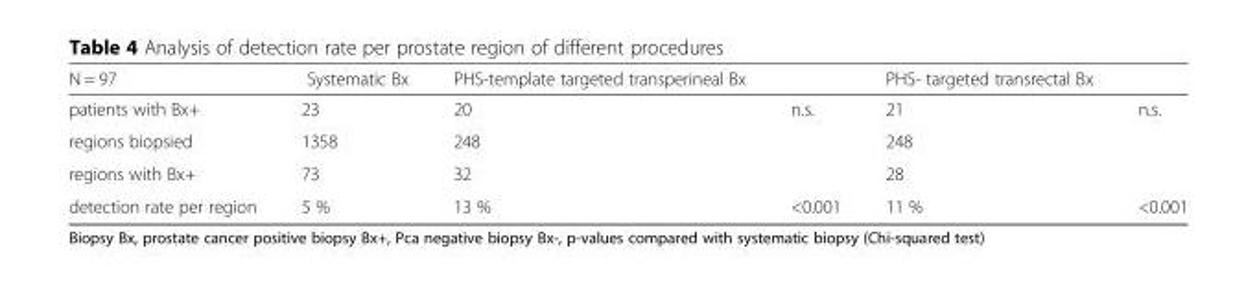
<table><thead><tr><td>N = 97</td><td>Systematic Bx</td><td>PHS-template targeted transperineal Bx</td><td></td><td>PHS- targeted transrectal Bx</td><td></td></tr></thead><tbody><tr><td>patients with Bx+</td><td>23</td><td>20</td><td>n.s.</td><td>21</td><td>n.s.</td></tr><tr><td>regions biopsied</td><td>1358</td><td>248</td><td></td><td>248</td><td></td></tr><tr><td>regions with Bx+</td><td>73</td><td>32</td><td></td><td>28</td><td></td></tr><tr><td>detection rate per region</td><td>5 %</td><td>13 %</td><td>&lt;0.001</td><td>11 %</td><td>&lt;0.001</td></tr></tbody></table>